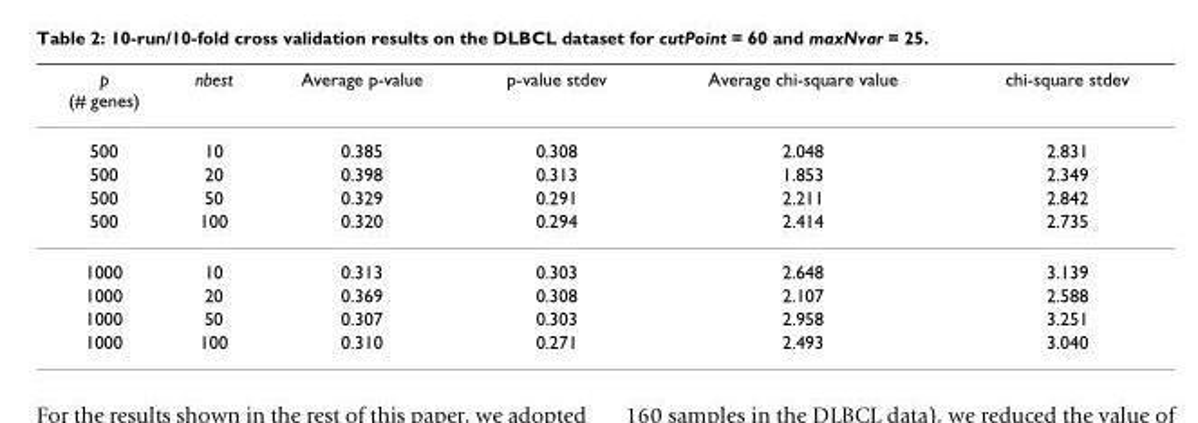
<table><thead><tr><td>p (# genes)</td><td>nbest</td><td>Average p-value</td><td>p-value stdev</td><td>Average chi-square value</td><td>chi-square stdev</td></tr></thead><tbody><tr><td>500</td><td>10</td><td>0.385</td><td>0.308</td><td>2.048</td><td>2.831</td></tr><tr><td>500</td><td>20</td><td>0.398</td><td>0.313</td><td>1.853</td><td>2.349</td></tr><tr><td>500</td><td>50</td><td>0.329</td><td>0.291</td><td>2.211</td><td>2.842</td></tr><tr><td>500</td><td>100</td><td>0.320</td><td>0.294</td><td>2.414</td><td>2.735</td></tr><tr><td>1000</td><td>10</td><td>0.313</td><td>0.303</td><td>2.648</td><td>3.139</td></tr><tr><td>1000</td><td>20</td><td>0.369</td><td>0.308</td><td>2.107</td><td>2.588</td></tr><tr><td>1000</td><td>50</td><td>0.307</td><td>0.303</td><td>2.958</td><td>3.251</td></tr><tr><td>1000</td><td>100</td><td>0.310</td><td>0.271</td><td>2.493</td><td>3.040</td></tr></tbody></table>